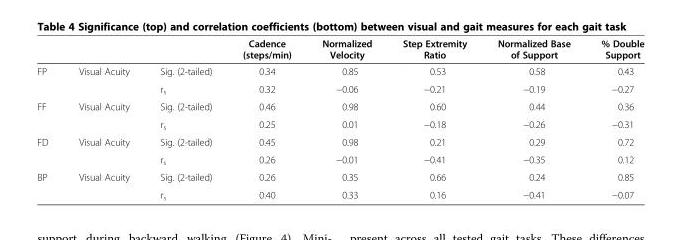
<table><thead><tr><td></td><td></td><td></td><td>Cadence (steps/min)</td><td>Normalized Velocity</td><td>Step Extremity Ratio</td><td>Normalized Base of Support</td><td>% Double Support</td></tr></thead><tbody><tr><td rowspan="2">FP</td><td rowspan="2">Visual Acuity</td><td>Sig. (2-tailed)</td><td>0.34</td><td>0.85</td><td>0.53</td><td>0.58</td><td>0.43</td></tr><tr><td>r<sub>s</sub></td><td>0.32</td><td>−0.06</td><td>−0.21</td><td>−0.19</td><td>−0.27</td></tr><tr><td rowspan="2">FF</td><td rowspan="2">Visual Acuity</td><td>Sig. (2-tailed)</td><td>0.46</td><td>0.98</td><td>0.60</td><td>0.44</td><td>0.36</td></tr><tr><td>r<sub>s</sub></td><td>0.25</td><td>0.01</td><td>−0.18</td><td>−0.26</td><td>−0.31</td></tr><tr><td rowspan="2">FD</td><td rowspan="2">Visual Acuity</td><td>Sig. (2-tailed)</td><td>0.45</td><td>0.98</td><td>0.21</td><td>0.29</td><td>0.72</td></tr><tr><td>r<sub>s</sub></td><td>0.26</td><td>−0.01</td><td>−0.41</td><td>−0.35</td><td>0.12</td></tr><tr><td rowspan="2">BP</td><td>Visual Acuity</td><td>Sig. (2-tailed)</td><td>0.26</td><td>0.35</td><td>0.66</td><td>0.24</td><td>0.85</td></tr><tr><td></td><td>r<sub>s</sub></td><td>0.40</td><td>0.33</td><td>0.16</td><td>−0.41</td><td>−0.07</td></tr></tbody></table>